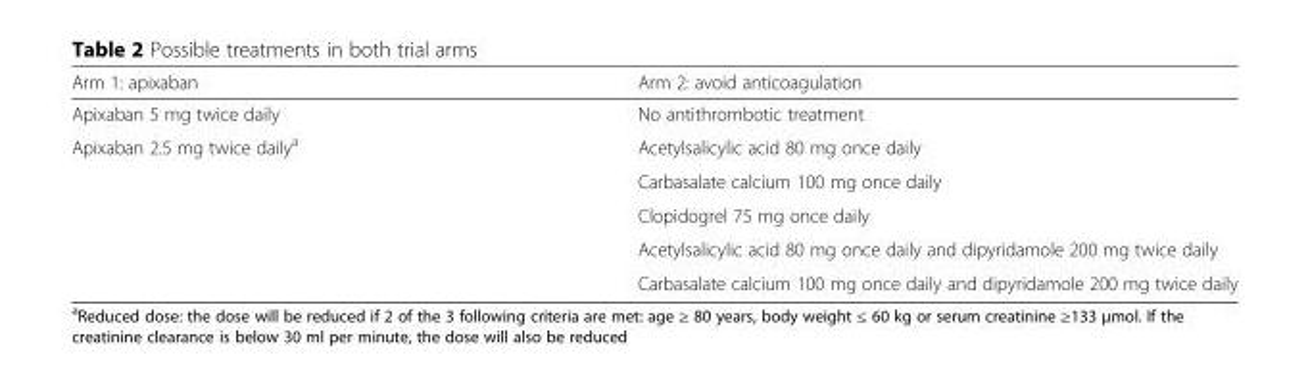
<table><thead><tr><td>Arm 1: apixaban</td><td>Arm 2: avoid anticoagulation</td></tr></thead><tbody><tr><td>Apixaban 5 mg twice daily</td><td>No antithrombotic treatment</td></tr><tr><td rowspan="5">Apixaban 2.5 mg twice daily<sup>a</sup></td><td>Acetylsalicylic acid 80 mg once daily</td></tr><tr><td>Carbasalate calcium 100 mg once daily</td></tr><tr><td>Clopidogrel 75 mg once daily</td></tr><tr><td>Acetylsalicylic acid 80 mg once daily and dipyridamole 200 mg twice daily</td></tr><tr><td>Carbasalate calcium 100 mg once daily and dipyridamole 200 mg twice daily</td></tr></tbody></table>